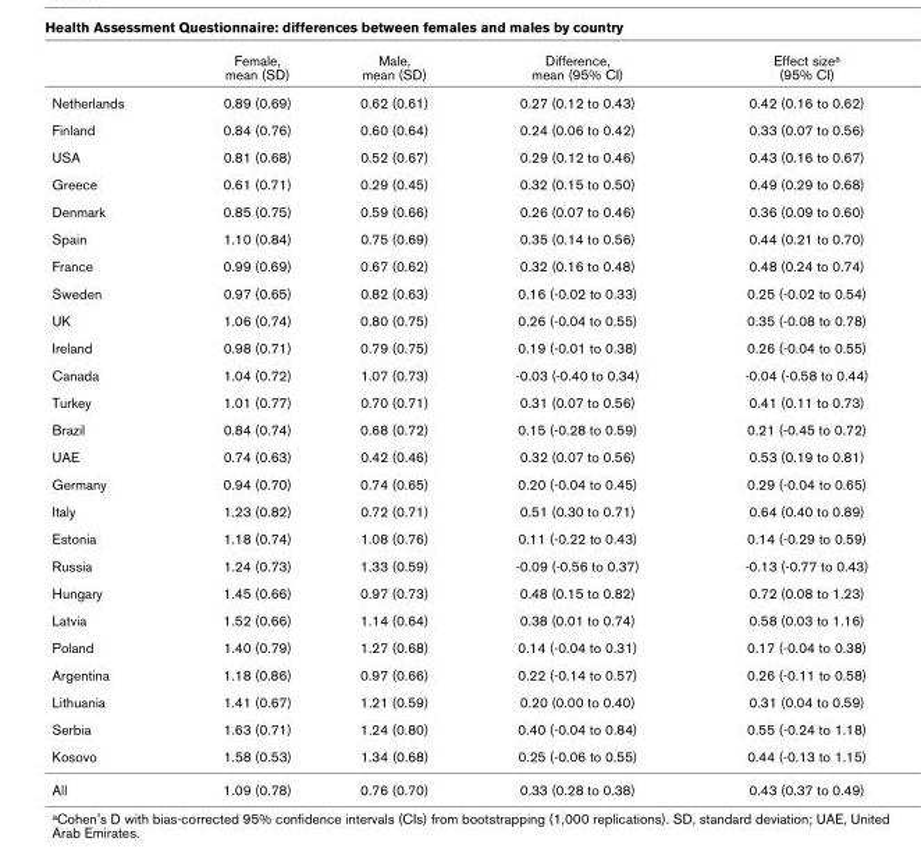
<table><thead><tr><td></td><td>Female, mean (SD)</td><td>Male, mean (SD)</td><td>Difference, mean (95% CI)</td><td>Effect size<sup>a</sup> (95% CI)</td></tr></thead><tbody><tr><td>Netherlands</td><td>0.89 (0.69)</td><td>0.62 (0.61)</td><td>0.27 (0.12 to 0.43)</td><td>0.42 (0.16 to 0.62)</td></tr><tr><td>Finland</td><td>0.84 (0.76)</td><td>0.60 (0.64)</td><td>0.24 (0.06 to 0.42)</td><td>0.33 (0.07 to 0.56)</td></tr><tr><td>USA</td><td>0.81 (0.68)</td><td>0.52 (0.67)</td><td>0.29 (0.12 to 0.46)</td><td>0.43 (0.16 to 0.67)</td></tr><tr><td>Greece</td><td>0.61 (0.71)</td><td>0.29 (0.45)</td><td>0.32 (0.15 to 0.50)</td><td>0.49 (0.29 to 0.68)</td></tr><tr><td>Denmark</td><td>0.85 (0.75)</td><td>0.59 (0.66)</td><td>0.26 (0.07 to 0.46)</td><td>0.36 (0.09 to 0.60)</td></tr><tr><td>Spain</td><td>1.10 (0.84)</td><td>0.75 (0.69)</td><td>0.35 (0.14 to 0.56)</td><td>0.44 (0.21 to 0.70)</td></tr><tr><td>France</td><td>0.99 (0.69)</td><td>0.67 (0.62)</td><td>0.32 (0.16 to 0.48)</td><td>0.48 (0.24 to 0.74)</td></tr><tr><td>Sweden</td><td>0.97 (0.65)</td><td>0.82 (0.63)</td><td>0.16 (-0.02 to 0.33)</td><td>0.25 (-0.02 to 0.54)</td></tr><tr><td>UK</td><td>1.06 (0.74)</td><td>0.80 (0.75)</td><td>0.26 (-0.04 to 0.55)</td><td>0.35 (-0.08 to 0.78)</td></tr><tr><td>Ireland</td><td>0.98 (0.71)</td><td>0.79 (0.75)</td><td>0.19 (-0.01 to 0.38)</td><td>0.26 (-0.04 to 0.55)</td></tr><tr><td>Canada</td><td>1.04 (0.72)</td><td>1.07 (0.73)</td><td>-0.03 (-0.40 to 0.34)</td><td>-0.04 (-0.58 to 0.44)</td></tr><tr><td>Turkey</td><td>1.01 (0.77)</td><td>0.70 (0.71)</td><td>0.31 (0.07 to 0.56)</td><td>0.41 (0.11 to 0.73)</td></tr><tr><td>Brazil</td><td>0.84 (0.74)</td><td>0.68 (0.72)</td><td>0.15 (-0.28 to 0.59)</td><td>0.21 (-0.45 to 0.72)</td></tr><tr><td>UAE</td><td>0.74 (0.63)</td><td>0.42 (0.46)</td><td>0.32 (0.07 to 0.56)</td><td>0.53 (0.19 to 0.81)</td></tr><tr><td>Germany</td><td>0.94 (0.70)</td><td>0.74 (0.65)</td><td>0.20 (-0.04 to 0.45)</td><td>0.29 (-0.04 to 0.65)</td></tr><tr><td>Italy</td><td>1.23 (0.82)</td><td>0.72 (0.71)</td><td>0.51 (0.30 to 0.71)</td><td>0.64 (0.40 to 0.89)</td></tr><tr><td>Estonia</td><td>1.18 (0.74)</td><td>1.08 (0.76)</td><td>0.11 (-0.22 to 0.43)</td><td>0.14 (-0.29 to 0.59)</td></tr><tr><td>Russia</td><td>1.24 (0.73)</td><td>1.33 (0.59)</td><td>-0.09 (-0.56 to 0.37)</td><td>-0.13 (-0.77 to 0.43)</td></tr><tr><td>Hungary</td><td>1.45 (0.66)</td><td>0.97 (0.73)</td><td>0.48 (0.15 to 0.82)</td><td>0.72 (0.08 to 1.23)</td></tr><tr><td>Latvia</td><td>1.52 (0.66)</td><td>1.14 (0.64)</td><td>0.38 (0.01 to 0.74)</td><td>0.58 (0.03 to 1.16)</td></tr><tr><td>Poland</td><td>1.40 (0.79)</td><td>1.27 (0.68)</td><td>0.14 (-0.04 to 0.31)</td><td>0.17 (-0.04 to 0.38)</td></tr><tr><td>Argentina</td><td>1.18 (0.86)</td><td>0.97 (0.66)</td><td>0.22 (-0.14 to 0.57)</td><td>0.26 (-0.11 to 0.58)</td></tr><tr><td>Lithuania</td><td>1.41 (0.67)</td><td>1.21 (0.59)</td><td>0.20 (0.00 to 0.40)</td><td>0.31 (0.04 to 0.59)</td></tr><tr><td>Serbia</td><td>1.63 (0.71)</td><td>1.24 (0.80)</td><td>0.40 (-0.04 to 0.84)</td><td>0.55 (-0.24 to 1.18)</td></tr><tr><td>Kosovo</td><td>1.58 (0.53)</td><td>1.34 (0.68)</td><td>0.25 (-0.06 to 0.55)</td><td>0.44 (-0.13 to 1.15)</td></tr><tr><td>All</td><td>1.09 (0.78)</td><td>0.76 (0.70)</td><td>0.33 (0.28 to 0.38)</td><td>0.43 (0.37 to 0.49)</td></tr></tbody></table>